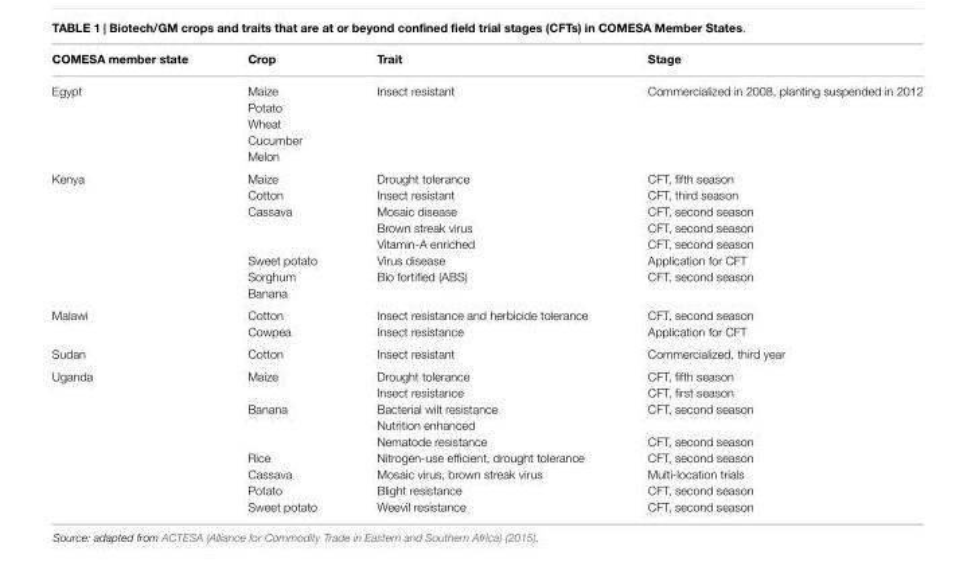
<table><thead><tr><td>COMESA member state</td><td>Crop</td><td>Trait</td><td>Stage</td></tr></thead><tbody><tr><td rowspan="5">Egypt</td><td>Maize</td><td>Insect resistant</td><td>Commercialized in 2008, planting suspended in 2012</td></tr><tr><td>Potato</td><td></td><td></td></tr><tr><td>Wheat</td><td></td><td></td></tr><tr><td>Cucumber</td><td></td><td></td></tr><tr><td>Melon</td><td></td><td></td></tr><tr><td rowspan="8">Kenya</td><td>Maize</td><td>Drought tolerance</td><td>CFT, fifth season</td></tr><tr><td>Cotton</td><td>Insect resistant</td><td>CFT, third season</td></tr><tr><td>Cassava</td><td>Mosaic disease</td><td>CFT, second season</td></tr><tr><td></td><td>Brown streak virus</td><td>CFT, second season</td></tr><tr><td></td><td>Vitamin-A enriched</td><td>CFT, second season</td></tr><tr><td>Sweet potato</td><td>Virus disease</td><td>Application for CFT</td></tr><tr><td>Sorghum</td><td>Bio fortified (ABS)</td><td>CFT, second season</td></tr><tr><td>Banana</td><td></td><td></td></tr><tr><td rowspan="2">Malawi</td><td>Cotton</td><td>Insect resistance and herbicide tolerance</td><td>CFT, second season</td></tr><tr><td>Cowpea</td><td>Insect resistance</td><td>Application for CFT</td></tr><tr><td>Sudan</td><td>Cotton</td><td>Insect resistant</td><td>Commercialized, third year</td></tr><tr><td rowspan="9">Uganda</td><td>Maize</td><td>Drought tolerance</td><td>CFT, fifth season</td></tr><tr><td></td><td>Insect resistance</td><td>CFT, first season</td></tr><tr><td>Banana</td><td>Bacterial wilt resistance</td><td>CFT, second season</td></tr><tr><td></td><td>Nutrition enhanced</td><td></td></tr><tr><td></td><td>Nematode resistance</td><td>CFT, second season</td></tr><tr><td>Rice</td><td>Nitrogen-use efficient, drought tolerance</td><td>CFT, second season</td></tr><tr><td>Cassava</td><td>Mosaic virus, brown streak virus</td><td>Multi-location trials</td></tr><tr><td>Potato</td><td>Blight resistance</td><td>CFT, second season</td></tr><tr><td>Sweet potato</td><td>Weevil resistance</td><td>CFT, second season</td></tr></tbody></table>